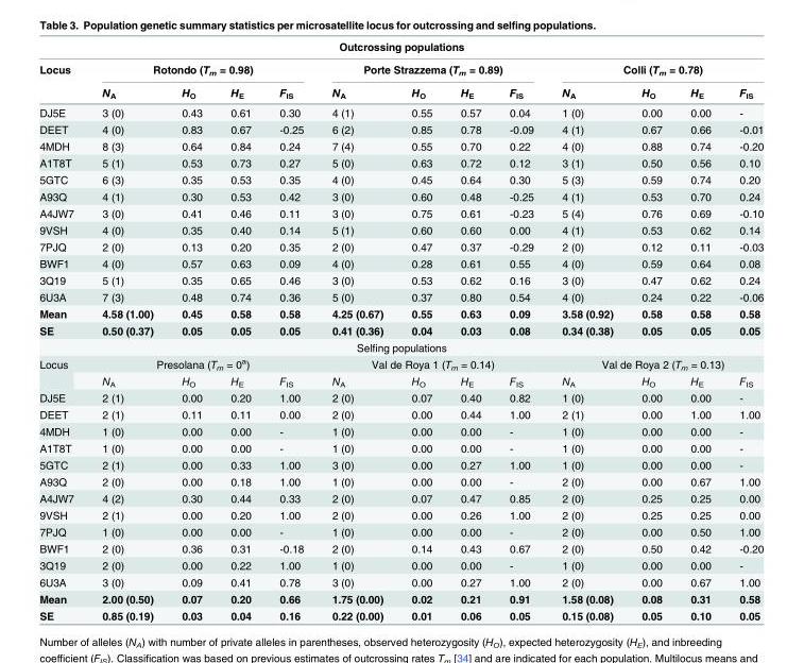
<table><thead><tr><td colspan="13">Outcrossing populations</td></tr><tr><td rowspan="2">Locus</td><td colspan="4">Rotondo (T<sub>m</sub> = 0.98)</td><td colspan="4">Porte Strazzema (T<sub>m</sub> = 0.89)</td><td colspan="4">Colli (T<sub>m</sub> = 0.78)</td></tr><tr><td>N<sub>A</sub></td><td>H<sub>O</sub></td><td>H<sub>E</sub></td><td>F<sub>IS</sub></td><td>N<sub>A</sub></td><td>H<sub>O</sub></td><td>H<sub>E</sub></td><td>F<sub>IS</sub></td><td>N<sub>A</sub></td><td>H<sub>O</sub></td><td>H<sub>E</sub></td><td>F<sub>IS</sub></td></tr></thead><tbody><tr><td>DJ5E</td><td>3 (0)</td><td>0.43</td><td>0.61</td><td>0.30</td><td>4 (1)</td><td>0.55</td><td>0.57</td><td>0.04</td><td>1 (0)</td><td>0.00</td><td>0.00</td><td>-</td></tr><tr><td>DEET</td><td>4 (0)</td><td>0.83</td><td>0.67</td><td>-0.25</td><td>6 (2)</td><td>0.85</td><td>0.78</td><td>-0.09</td><td>4 (1)</td><td>0.67</td><td>0.66</td><td>-0.01</td></tr><tr><td>4MDH</td><td>8 (3)</td><td>0.64</td><td>0.84</td><td>0.24</td><td>7 (4)</td><td>0.55</td><td>0.70</td><td>0.22</td><td>4 (0)</td><td>0.88</td><td>0.74</td><td>-0.20</td></tr><tr><td>A1T8T</td><td>5 (1)</td><td>0.53</td><td>0.73</td><td>0.27</td><td>5 (0)</td><td>0.63</td><td>0.72</td><td>0.12</td><td>3 (1)</td><td>0.50</td><td>0.56</td><td>0.10</td></tr><tr><td>5GTC</td><td>6 (3)</td><td>0.35</td><td>0.53</td><td>0.35</td><td>4 (0)</td><td>0.45</td><td>0.64</td><td>0.30</td><td>5 (3)</td><td>0.59</td><td>0.74</td><td>0.20</td></tr><tr><td>A93Q</td><td>4 (1)</td><td>0.30</td><td>0.53</td><td>0.42</td><td>3 (0)</td><td>0.60</td><td>0.48</td><td>-0.25</td><td>4 (1)</td><td>0.53</td><td>0.70</td><td>0.24</td></tr><tr><td>A4JW7</td><td>3 (0)</td><td>0.41</td><td>0.46</td><td>0.11</td><td>3 (0)</td><td>0.75</td><td>0.61</td><td>-0.23</td><td>5 (4)</td><td>0.76</td><td>0.69</td><td>-0.10</td></tr><tr><td>9VSH</td><td>4 (0)</td><td>0.35</td><td>0.40</td><td>0.14</td><td>5 (1)</td><td>0.60</td><td>0.60</td><td>0.00</td><td>4 (1)</td><td>0.53</td><td>0.62</td><td>0.14</td></tr><tr><td>7PJQ</td><td>2 (0)</td><td>0.13</td><td>0.20</td><td>0.35</td><td>2 (0)</td><td>0.47</td><td>0.37</td><td>-0.29</td><td>2 (0)</td><td>0.12</td><td>0.11</td><td>-0.03</td></tr><tr><td>BWF1</td><td>4 (0)</td><td>0.57</td><td>0.63</td><td>0.09</td><td>4 (0)</td><td>0.28</td><td>0.61</td><td>0.55</td><td>4 (0)</td><td>0.59</td><td>0.64</td><td>0.08</td></tr><tr><td>3Q19</td><td>5 (1)</td><td>0.35</td><td>0.65</td><td>0.46</td><td>3 (0)</td><td>0.53</td><td>0.62</td><td>0.16</td><td>3 (0)</td><td>0.47</td><td>0.62</td><td>0.24</td></tr><tr><td>6U3A</td><td>7 (3)</td><td>0.48</td><td>0.74</td><td>0.36</td><td>5 (0)</td><td>0.37</td><td>0.80</td><td>0.54</td><td>4 (0)</td><td>0.24</td><td>0.22</td><td>-0.06</td></tr><tr><td>Mean</td><td>4.58 (1.00)</td><td>0.45</td><td>0.58</td><td>0.58</td><td>4.25 (0.67)</td><td>0.55</td><td>0.63</td><td>0.09</td><td>3.58 (0.92)</td><td>0.58</td><td>0.58</td><td>0.58</td></tr><tr><td>SE</td><td>0.50 (0.37)</td><td>0.05</td><td>0.05</td><td>0.05</td><td>0.41 (0.36)</td><td>0.04</td><td>0.03</td><td>0.08</td><td>0.34 (0.38)</td><td>0.05</td><td>0.05</td><td>0.05</td></tr><tr><td colspan="13">Selfing populations</td></tr><tr><td rowspan="2">Locus</td><td colspan="4">Presolana (T<sub>m</sub> = 0<sup>a</sup>)</td><td colspan="4">Val de Roya 1 (T<sub>m</sub> = 0.14)</td><td colspan="4">Val de Roya 2 (T<sub>m</sub> = 0.13)</td></tr><tr><td>N<sub>A</sub></td><td>H<sub>O</sub></td><td>H<sub>E</sub></td><td>F<sub>IS</sub></td><td>N<sub>A</sub></td><td>H<sub>O</sub></td><td>H<sub>E</sub></td><td>F<sub>IS</sub></td><td>N<sub>A</sub></td><td>H<sub>O</sub></td><td>H<sub>E</sub></td><td>F<sub>IS</sub></td></tr><tr><td>DJ5E</td><td>2 (1)</td><td>0.00</td><td>0.20</td><td>1.00</td><td>2 (0)</td><td>0.07</td><td>0.40</td><td>0.82</td><td>1 (0)</td><td>0.00</td><td>0.00</td><td>-</td></tr><tr><td>DEET</td><td>2 (1)</td><td>0.11</td><td>0.11</td><td>0.00</td><td>2 (0)</td><td>0.00</td><td>0.44</td><td>1.00</td><td>2 (1)</td><td>0.00</td><td>1.00</td><td>1.00</td></tr><tr><td>4MDH</td><td>1 (0)</td><td>0.00</td><td>0.00</td><td>-</td><td>1 (0)</td><td>0.00</td><td>0.00</td><td>-</td><td>1 (0)</td><td>0.00</td><td>0.00</td><td>-</td></tr><tr><td>A1T8T</td><td>1 (0)</td><td>0.00</td><td>0.00</td><td>-</td><td>1 (0)</td><td>0.00</td><td>0.00</td><td>-</td><td>1 (0)</td><td>0.00</td><td>0.00</td><td>-</td></tr><tr><td>5GTC</td><td>2 (1)</td><td>0.00</td><td>0.33</td><td>1.00</td><td>3 (0)</td><td>0.00</td><td>0.27</td><td>1.00</td><td>1 (0)</td><td>0.00</td><td>0.00</td><td>-</td></tr><tr><td>A93Q</td><td>2 (0)</td><td>0.00</td><td>0.18</td><td>1.00</td><td>1 (0)</td><td>0.00</td><td>0.00</td><td>-</td><td>2 (0)</td><td>0.00</td><td>0.67</td><td>1.00</td></tr><tr><td>A4JW7</td><td>4 (2)</td><td>0.30</td><td>0.44</td><td>0.33</td><td>2 (0)</td><td>0.07</td><td>0.47</td><td>0.85</td><td>2 (0)</td><td>0.25</td><td>0.25</td><td>0.00</td></tr><tr><td>9VSH</td><td>2 (1)</td><td>0.00</td><td>0.20</td><td>1.00</td><td>2 (0)</td><td>0.00</td><td>0.26</td><td>1.00</td><td>2 (0)</td><td>0.25</td><td>0.25</td><td>0.00</td></tr><tr><td>7PJQ</td><td>1 (0)</td><td>0.00</td><td>0.00</td><td>-</td><td>1 (0)</td><td>0.00</td><td>0.00</td><td>-</td><td>2 (0)</td><td>0.00</td><td>0.50</td><td>1.00</td></tr><tr><td>BWF1</td><td>2 (0)</td><td>0.36</td><td>0.31</td><td>-0.18</td><td>2 (0)</td><td>0.14</td><td>0.43</td><td>0.67</td><td>2 (0)</td><td>0.50</td><td>0.42</td><td>-0.20</td></tr><tr><td>3Q19</td><td>2 (0)</td><td>0.00</td><td>0.22</td><td>1.00</td><td>1 (0)</td><td>0.00</td><td>0.00</td><td>-</td><td>1 (0)</td><td>0.00</td><td>0.00</td><td>-</td></tr><tr><td>6U3A</td><td>3 (0)</td><td>0.09</td><td>0.41</td><td>0.78</td><td>3 (0)</td><td>0.00</td><td>0.27</td><td>1.00</td><td>2 (0)</td><td>0.00</td><td>0.67</td><td>1.00</td></tr><tr><td>Mean</td><td>2.00 (0.50)</td><td>0.07</td><td>0.20</td><td>0.66</td><td>1.75 (0.00)</td><td>0.02</td><td>0.21</td><td>0.91</td><td>1.58 (0.08)</td><td>0.08</td><td>0.31</td><td>0.58</td></tr><tr><td>SE</td><td>0.85 (0.19)</td><td>0.03</td><td>0.04</td><td>0.16</td><td>0.22 (0.00)</td><td>0.01</td><td>0.06</td><td>0.05</td><td>0.15 (0.08)</td><td>0.05</td><td>0.10</td><td>0.05</td></tr></tbody></table>